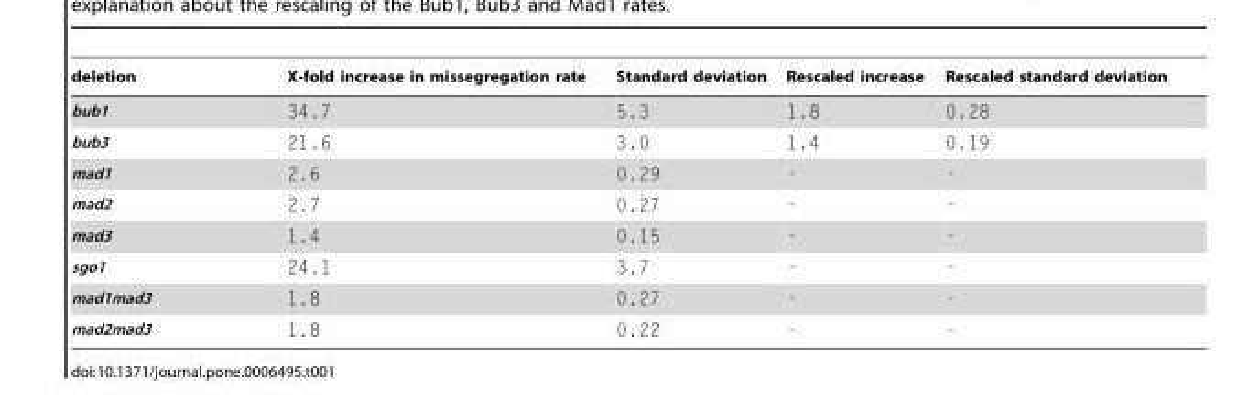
<table><thead><tr><td>deletion</td><td>X-fold increase in missegregation rate</td><td>Standard deviation</td><td>Rescaled increase</td><td>Rescaled standard deviation</td></tr></thead><tbody><tr><td>bub1</td><td>34.7</td><td>5.3</td><td>1.8</td><td>0.28</td></tr><tr><td>bub3</td><td>21.6</td><td>3.0</td><td>1.4</td><td>0.19</td></tr><tr><td>mad1</td><td>2.6</td><td>0.29</td><td>-</td><td>-</td></tr><tr><td>mad2</td><td>2.7</td><td>0.27</td><td>-</td><td>-</td></tr><tr><td>mad3</td><td>1.4</td><td>0.15</td><td>-</td><td>-</td></tr><tr><td>sgo1</td><td>24.1</td><td>3.7</td><td>-</td><td>-</td></tr><tr><td>mad1mad3</td><td>1.8</td><td>0.27</td><td>-</td><td>-</td></tr><tr><td>mad2mad3</td><td>1.8</td><td>0.22</td><td>-</td><td>-</td></tr></tbody></table>